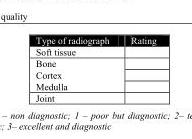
<table><thead><tr><td>Type of radiograph</td><td>Rating</td></tr></thead><tbody><tr><td colspan="2">Soft tissue</td></tr><tr><td colspan="2">Bone</td></tr><tr><td colspan="2">Cortex</td></tr><tr><td colspan="2">Medulla</td></tr><tr><td>Joint</td><td></td></tr></tbody></table>